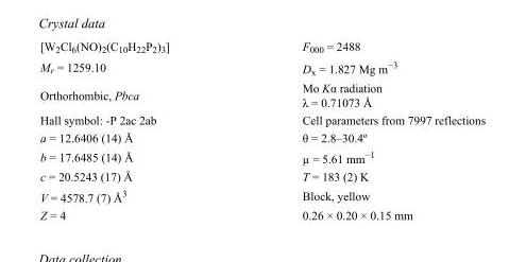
<table><tbody><tr><td>[W<sub>2</sub>Cl<sub>6</sub>(NO)<sub>2</sub>(C<sub>10</sub>H<sub>22</sub>P<sub>2</sub>)<sub>3</sub>]</td><td>F<sub>000</sub> = 2488</td></tr><tr><td>M<sub>r</sub> = 1259.10</td><td>D<sub>x</sub> = 1.827 Mg m<sup>−3</sup></td></tr><tr><td>Orthorhombic, Pbca</td><td>Mo Kα radiation λ = 0.71073 Å</td></tr><tr><td>Hall symbol: -P 2ac 2ab</td><td>Cell parameters from 7997 reflections</td></tr><tr><td>a = 12.6406 (14) Å</td><td>θ = 2.8–30.4º</td></tr><tr><td>b = 17.6485 (14) Å</td><td>µ = 5.61 mm<sup>−1</sup></td></tr><tr><td>c = 20.5243 (17) Å</td><td>T = 183 (2) K</td></tr><tr><td>V = 4578.7 (7) Å<sup>3</sup></td><td>Block, yellow</td></tr><tr><td>Z = 4</td><td>0.26 × 0.20 × 0.15 mm</td></tr></tbody></table>